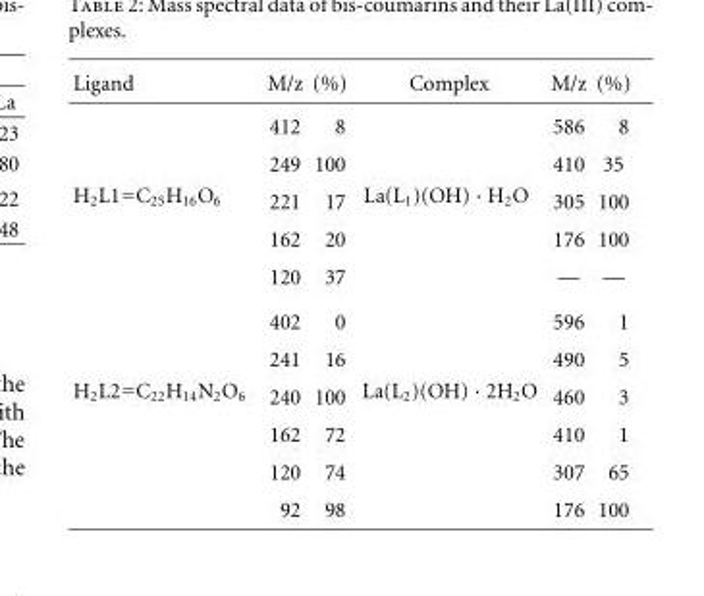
<table><tbody><tr><td>Ligand</td><td>M/z</td><td>(%)</td><td>Complex</td><td>M/z</td><td>(%)</td></tr><tr><td rowspan="5">H<sub>2</sub>L1=C<sub>25</sub>H<sub>16</sub>O<sub>6</sub></td><td>412</td><td>8</td><td rowspan="5">La(L<sub>1</sub>)(OH) · H<sub>2</sub>O</td><td>586</td><td>8</td></tr><tr><td>249</td><td>100</td><td>410</td><td>35</td></tr><tr><td>221</td><td>17</td><td>305</td><td>100</td></tr><tr><td>162</td><td>20</td><td>176</td><td>100</td></tr><tr><td>120</td><td>37</td><td>—</td><td>—</td></tr><tr><td rowspan="6">H<sub>2</sub>L2=C<sub>22</sub>H<sub>14</sub>N<sub>2</sub>O<sub>6</sub></td><td>402</td><td>0</td><td rowspan="5">La(L<sub>2</sub>)(OH) · 2H<sub>2</sub>O</td><td>596</td><td>1</td></tr><tr><td>241</td><td>16</td><td>490</td><td>5</td></tr><tr><td>240</td><td>100</td><td>460</td><td>3</td></tr><tr><td>162</td><td>72</td><td>410</td><td>1</td></tr><tr><td>120</td><td>74</td><td>307</td><td>65</td></tr><tr><td>92</td><td>98</td><td></td><td>176</td><td>100</td></tr></tbody></table>